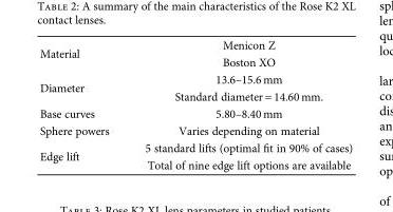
<table><tbody><tr><td rowspan="2">Material</td><td>Menicon Z</td></tr><tr><td>Boston XO</td></tr><tr><td rowspan="2">Diameter</td><td>13.6–15.6 mm</td></tr><tr><td>Standard diameter = 14.60 mm.</td></tr><tr><td>Base curves</td><td>5.80–8.40 mm</td></tr><tr><td>Sphere powers</td><td>Varies depending on material</td></tr><tr><td rowspan="2">Edge lift</td><td>5 standard lifts (optimal fit in 90% of cases)</td></tr><tr><td>Total of nine edge lift options are available</td></tr></tbody></table>